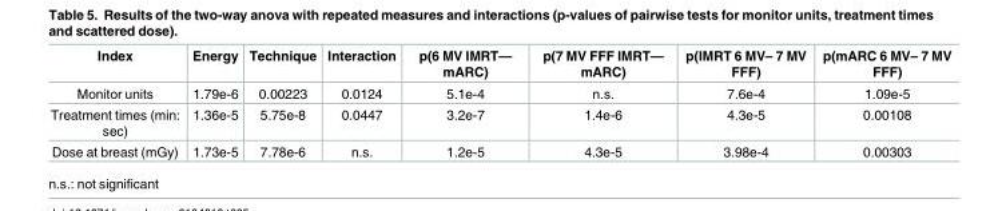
<table><thead><tr><td>Index</td><td>Energy</td><td>Technique</td><td>Interaction</td><td>p(6 MV IMRT— mARC)</td><td>p(7 MV FFF IMRT— mARC)</td><td>p(IMRT 6 MV– 7 MV FFF)</td><td>p(mARC 6 MV– 7 MV FFF)</td></tr></thead><tbody><tr><td>Monitor units</td><td>1.79e-6</td><td>0.00223</td><td>0.0124</td><td>5.1e-4</td><td>n.s.</td><td>7.6e-4</td><td>1.09e-5</td></tr><tr><td>Treatment times (min: sec)</td><td>1.36e-5</td><td>5.75e-8</td><td>0.0447</td><td>3.2e-7</td><td>1.4e-6</td><td>4.3e-5</td><td>0.00108</td></tr><tr><td>Dose at breast (mGy)</td><td>1.73e-5</td><td>7.78e-6</td><td>n.s.</td><td>1.2e-5</td><td>4.3e-5</td><td>3.98e-4</td><td>0.00303</td></tr></tbody></table>